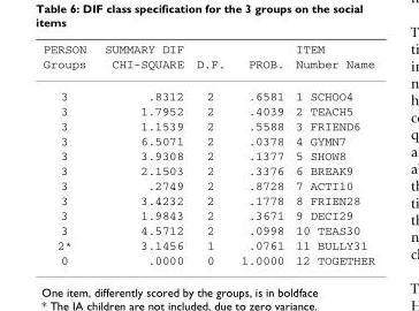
<table><thead><tr><td rowspan="2">PERSON Groups</td><td rowspan="2">SUMMARY DIF CHI-SQUARE</td><td rowspan="2">D.F.</td><td rowspan="2">PROB.</td><td rowspan="2">ITEM Number Name</td></tr><tr></tr></thead><tbody><tr><td>3</td><td>.8312</td><td>2</td><td>.6581</td><td>1 SCHOO4</td></tr><tr><td>3</td><td>1.7952</td><td>2</td><td>.4039</td><td>2 TEACH5</td></tr><tr><td>3</td><td>1.1539</td><td>2</td><td>.5588</td><td>3 FRIEND6</td></tr><tr><td>3</td><td>6.5071</td><td>2</td><td>.0378</td><td>4 GYMN7</td></tr><tr><td>3</td><td>3.9308</td><td>2</td><td>.1377</td><td>5 SHOW8</td></tr><tr><td>3</td><td>2.1503</td><td>2</td><td>.3376</td><td>6 BREAK9</td></tr><tr><td>3</td><td>.2749</td><td>2</td><td>.8728</td><td>7 ACTI10</td></tr><tr><td>3</td><td>3.4232</td><td>2</td><td>.1778</td><td>8 FRIEN28</td></tr><tr><td>3</td><td>1.9843</td><td>2</td><td>.3671</td><td>9 DECI29</td></tr><tr><td>3</td><td>4.5712</td><td>2</td><td>.0998</td><td>10 TEAS30</td></tr><tr><td>2*</td><td>3.1456</td><td>1</td><td>.0761</td><td>11 BULLY31</td></tr><tr><td>0</td><td>.0000</td><td>0</td><td>1.0000</td><td>12 TOGETHER</td></tr></tbody></table>